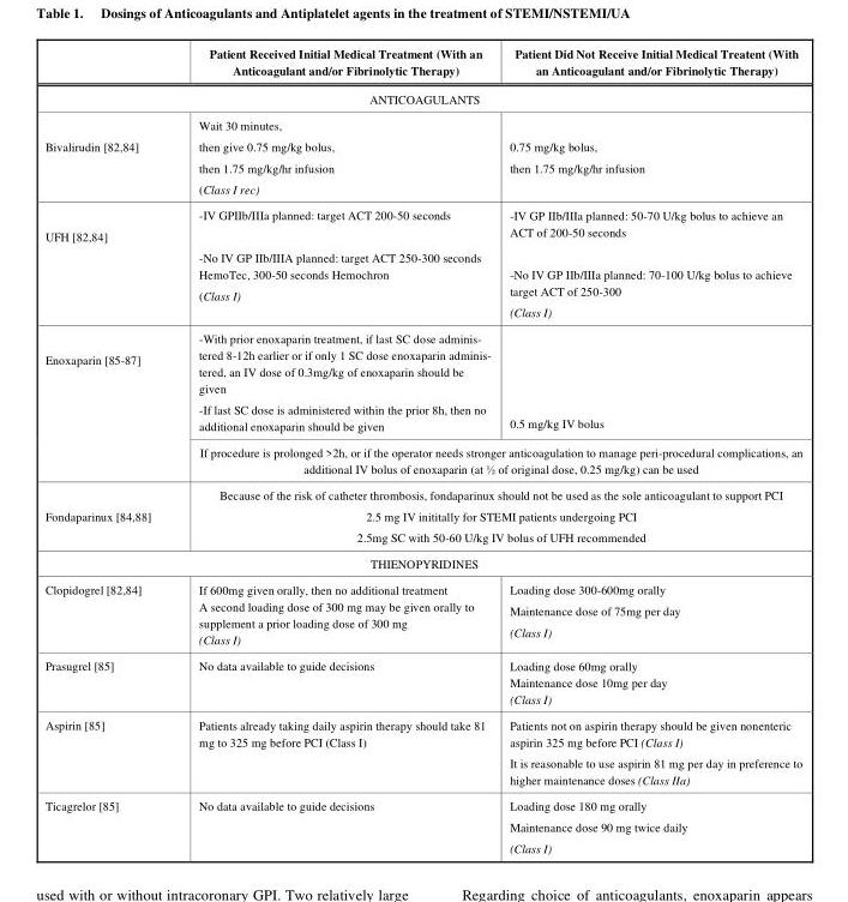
<table><thead><tr><td></td><td>Patient Received Initial Medical Treatment (With an Anticoagulant and/or Fibrinolytic Therapy)</td><td>Patient Did Not Receive Initial Medical Treatent (With an Anticoagulant and/or Fibrinolytic Therapy)</td></tr></thead><tbody><tr><td colspan="3">ANTICOAGULANTS</td></tr><tr><td>Bivalirudin [82,84]</td><td>Wait 30 minutes, then give 0.75 mg/kg bolus, then 1.75 mg/kg/hr infusion (Class I rec)</td><td>0.75 mg/kg bolus, then 1.75 mg/kg/hr infusion</td></tr><tr><td>UFH [82,84]</td><td>-IV GPIIb/IIIa planned: target ACT 200-50 seconds -No IV GP IIb/IIIA planned: target ACT 250-300 seconds HemoTec, 300-50 seconds Hemochron (Class I)</td><td>-IV GP IIb/IIIa planned: 50-70 U/kg bolus to achieve an ACT of 200-50 seconds -No IV GP IIb/IIIa planned: 70-100 U/kg bolus to achieve target ACT of 250-300 (Class I)</td></tr><tr><td rowspan="2">Enoxaparin [85-87]</td><td>-With prior enoxaparin treatment, if last SC dose adminis- tered 8-12h earlier or if only 1 SC dose enoxaparin adminis- tered, an IV dose of 0.3mg/kg of enoxaparin should be given -If last SC dose is administered within the prior 8h, then no additional enoxaparin should be given</td><td>0.5 mg/kg IV bolus</td></tr><tr><td colspan="2">If procedure is prolonged &gt;2h, or if the operator needs stronger anticoagulation to manage peri-procedural complications, an additional IV bolus of enoxaparin (at ½ of original dose, 0.25 mg/kg) can be used</td></tr><tr><td>Fondaparinux [84,88]</td><td colspan="2">Because of the risk of catheter thrombosis, fondaparinux should not be used as the sole anticoagulant to support PCI 2.5 mg IV inititally for STEMI patients undergoing PCI 2.5mg SC with 50-60 U/kg IV bolus of UFH recommended</td></tr><tr><td colspan="3">THIENOPYRIDINES</td></tr><tr><td>Clopidogrel [82,84]</td><td>If 600mg given orally, then no additional treatment A second loading dose of 300 mg may be given orally to supplement a prior loading dose of 300 mg (Class I)</td><td>Loading dose 300-600mg orally Maintenance dose of 75mg per day (Class I)</td></tr><tr><td>Prasugrel [85]</td><td>No data available to guide decisions</td><td>Loading dose 60mg orally Maintenance dose 10mg per day (Class I)</td></tr><tr><td>Aspirin [85]</td><td>Patients already taking daily aspirin therapy should take 81 mg to 325 mg before PCI (Class I)</td><td>Patients not on aspirin therapy should be given nonenteric aspirin 325 mg before PCI (Class I) It is reasonable to use aspirin 81 mg per day in preference to higher maintenance doses (Class IIa)</td></tr><tr><td>Ticagrelor [85]</td><td>No data available to guide decisions</td><td>Loading dose 180 mg orally Maintenance dose 90 mg twice daily (Class I)</td></tr></tbody></table>